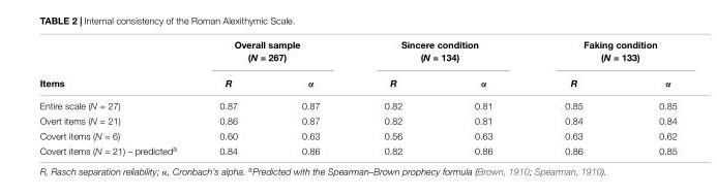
<table><thead><tr><td rowspan="2">Items</td><td colspan="2">Overall sample (N = 267)</td><td colspan="2">Sincere condition (N = 134)</td><td colspan="2">Faking condition (N = 133)</td></tr><tr><td>R</td><td>α</td><td>R</td><td>α</td><td>R</td><td>α</td></tr></thead><tbody><tr><td>Entire scale (N = 27)</td><td>0.87</td><td>0.87</td><td>0.82</td><td>0.81</td><td>0.85</td><td>0.85</td></tr><tr><td>Overt items (N = 21)</td><td>0.86</td><td>0.87</td><td>0.82</td><td>0.81</td><td>0.84</td><td>0.84</td></tr><tr><td>Covert items (N = 6)</td><td>0.60</td><td>0.63</td><td>0.56</td><td>0.63</td><td>0.63</td><td>0.62</td></tr><tr><td>Covert items (N = 21) – predicted<sup>a</sup></td><td>0.84</td><td>0.86</td><td>0.82</td><td>0.86</td><td>0.86</td><td>0.85</td></tr></tbody></table>